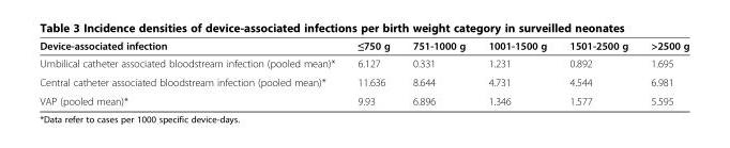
<table><thead><tr><td>Device-associated infection</td><td>≤750 g</td><td>751-1000 g</td><td>1001-1500 g</td><td>1501-2500 g</td><td>&gt;2500 g</td></tr></thead><tbody><tr><td>Umbilical catheter associated bloodstream infection (pooled mean)*</td><td>6.127</td><td>0.331</td><td>1.231</td><td>0.892</td><td>1.695</td></tr><tr><td>Central catheter associated bloodstream infection (pooled mean)*</td><td>11.636</td><td>8.644</td><td>4.731</td><td>4.544</td><td>6.981</td></tr><tr><td>VAP (pooled mean)*</td><td>9.93</td><td>6.896</td><td>1.346</td><td>1.577</td><td>5.595</td></tr></tbody></table>